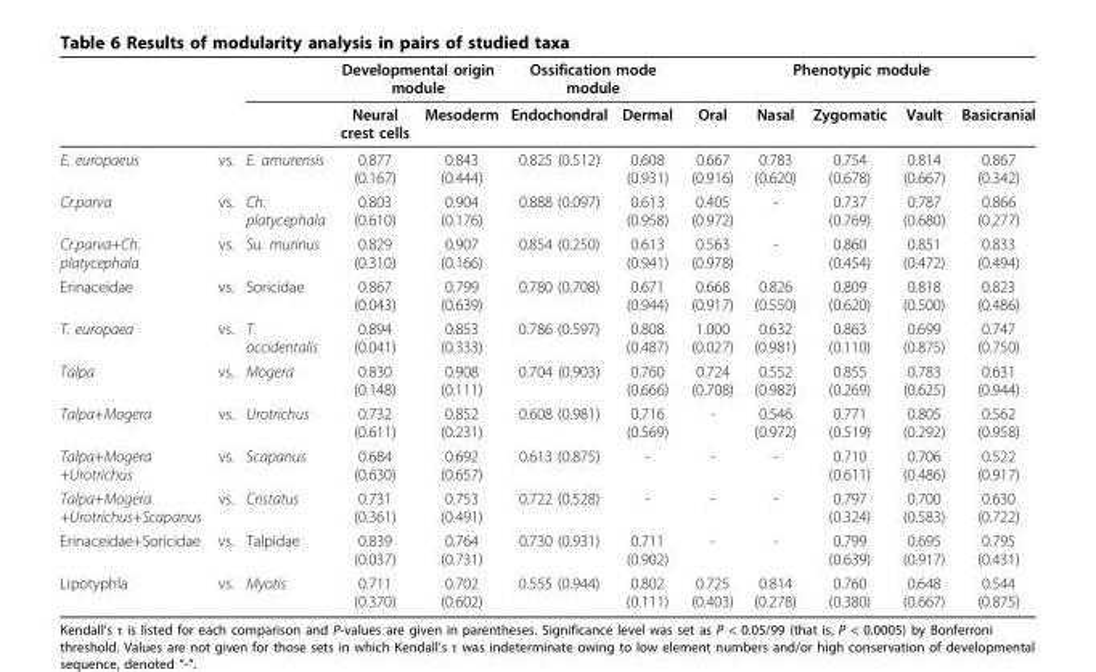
<table><thead><tr><td rowspan="2"></td><td rowspan="2"></td><td rowspan="2"></td><td colspan="2">Developmental origin module</td><td colspan="2">Ossification mode module</td><td colspan="5">Phenotypic module</td></tr><tr><td>Neural crest cells</td><td>Mesoderm</td><td>Endochondral</td><td>Dermal</td><td>Oral</td><td>Nasal</td><td>Zygomatic</td><td>Vault</td><td>Basicranial</td></tr></thead><tbody><tr><td>E. europaeus</td><td>vs.</td><td>E. amurensis</td><td>0.877 (0.167)</td><td>0.843 (0.444)</td><td>0.825 (0.512)</td><td>0.608 (0.931)</td><td>0.667 (0.916)</td><td>0.783 (0.620)</td><td>0.754 (0.678)</td><td>0.814 (0.667)</td><td>0.867 (0.342)</td></tr><tr><td>Cr.parva</td><td>vs.</td><td>Ch. platycephala</td><td>0.803 (0.610)</td><td>0.904 (0.176)</td><td>0.888 (0.097)</td><td>0.613 (0.958)</td><td>0.405 (0.972)</td><td>-</td><td>0.737 (0.769)</td><td>0.787 (0.680)</td><td>0.866 (0.277)</td></tr><tr><td>Cr.parva+Ch. platycephala</td><td>vs.</td><td>Su. murinus</td><td>0.829 (0.310)</td><td>0.907 (0.166)</td><td>0.854 (0.250)</td><td>0.613 (0.941)</td><td>0.563 (0.978)</td><td>-</td><td>0.860 (0.454)</td><td>0.851 (0.472)</td><td>0.833 (0.494)</td></tr><tr><td>Erinaceidae</td><td>vs.</td><td>Soricidae</td><td>0.867 (0.043)</td><td>0.799 (0.639)</td><td>0.780 (0.708)</td><td>0.671 (0.944)</td><td>0.668 (0.917)</td><td>0.826 (0.550)</td><td>0.809 (0.620)</td><td>0.818 (0.500)</td><td>0.823 (0.486)</td></tr><tr><td>T. europaea</td><td>vs.</td><td>T. occidentalis</td><td>0.894 (0.041)</td><td>0.853 (0.333)</td><td>0.786 (0.597)</td><td>0.808 (0.487)</td><td>1.000 (0.027)</td><td>0.632 (0.981)</td><td>0.863 (0.110)</td><td>0.699 (0.875)</td><td>0.747 (0.750)</td></tr><tr><td>Talpa</td><td>vs.</td><td>Mogera</td><td>0.830 (0.148)</td><td>0.908 (0.111)</td><td>0.704 (0.903)</td><td>0.760 (0.666)</td><td>0.724 (0.708)</td><td>0.552 (0.982)</td><td>0.855 (0.269)</td><td>0.783 (0.625)</td><td>0.631 (0.944)</td></tr><tr><td>Talpa+Mogera</td><td>vs.</td><td>Urotrichus</td><td>0.732 (0.611)</td><td>0.852 (0.231)</td><td>0.608 (0.981)</td><td>0.716 (0.569)</td><td>-</td><td>0.546 (0.972)</td><td>0.771 (0.519)</td><td>0.805 (0.292)</td><td>0.562 (0.958)</td></tr><tr><td>Talpa+Mogera +Urotrichus</td><td>vs.</td><td>Scapanus</td><td>0.684 (0.630)</td><td>0.692 (0.657)</td><td>0.613 (0.875)</td><td>-</td><td>-</td><td>-</td><td>0.710 (0.611)</td><td>0.706 (0.486)</td><td>0.522 (0.917)</td></tr><tr><td>Talpa+Mogera +Urotrichus+Scapanus</td><td>vs.</td><td>Cristatus</td><td>0.731 (0.361)</td><td>0.753 (0.491)</td><td>0.722 (0.528)</td><td>-</td><td>-</td><td>-</td><td>0.797 (0.324)</td><td>0.700 (0.583)</td><td>0.630 (0.722)</td></tr><tr><td>Erinaceidae+Soricidae</td><td>vs.</td><td>Talpidae</td><td>0.839 (0.037)</td><td>0.764 (0.731)</td><td>0.730 (0.931)</td><td>0.711 (0.902)</td><td>-</td><td>-</td><td>0.799 (0.639)</td><td>0.695 (0.917)</td><td>0.795 (0.431)</td></tr><tr><td>Lipotyphla</td><td>vs.</td><td>Myotis</td><td>0.711 (0.370)</td><td>0.702 (0.602)</td><td>0.555 (0.944)</td><td>0.802 (0.111)</td><td>0.725 (0.403)</td><td>0.814 (0.278)</td><td>0.760 (0.380)</td><td>0.648 (0.667)</td><td>0.544 (0.875)</td></tr></tbody></table>